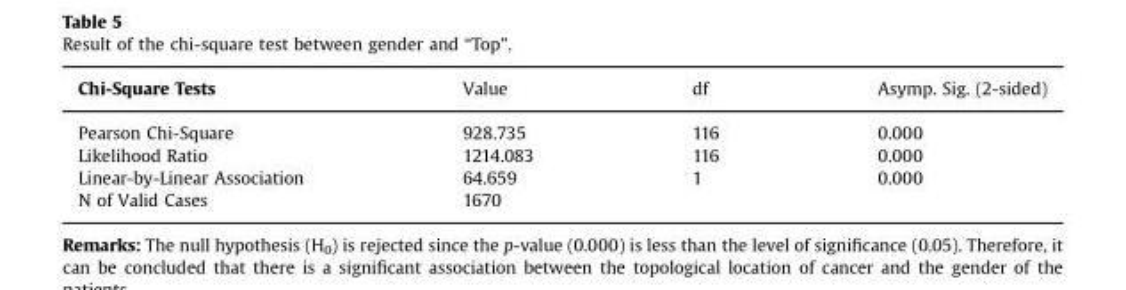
<table><thead><tr><td>Chi-Square Tests</td><td>Value</td><td>df</td><td>Asymp. Sig. (2-sided)</td></tr></thead><tbody><tr><td>Pearson Chi-Square</td><td>928.735</td><td>116</td><td>0.000</td></tr><tr><td>Likelihood Ratio</td><td>1214.083</td><td>116</td><td>0.000</td></tr><tr><td>Linear-by-Linear Association</td><td>64.659</td><td>1</td><td>0.000</td></tr><tr><td>N of Valid Cases</td><td>1670</td><td></td><td></td></tr></tbody></table>